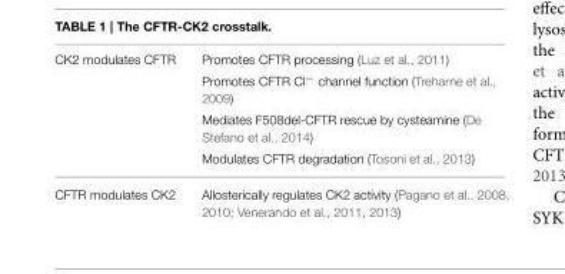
<table><tbody><tr><td rowspan="4">CK2 modulates CFTR</td><td>Promotes CFTR processing (Luz et al., 2011)</td></tr><tr><td>Promotes CFTR Cl<sup>−</sup> channel function (Treharne et al., 2009)</td></tr><tr><td>Mediates F508del-CFTR rescue by cysteamine (De Stefano et al., 2014)</td></tr><tr><td>Modulates CFTR degradation (Tosoni et al., 2013)</td></tr><tr><td>CFTR modulates CK2</td><td>Allosterically regulates CK2 activity (Pagano et al., 2008, 2010; Venerando et al., 2011, 2013)</td></tr></tbody></table>